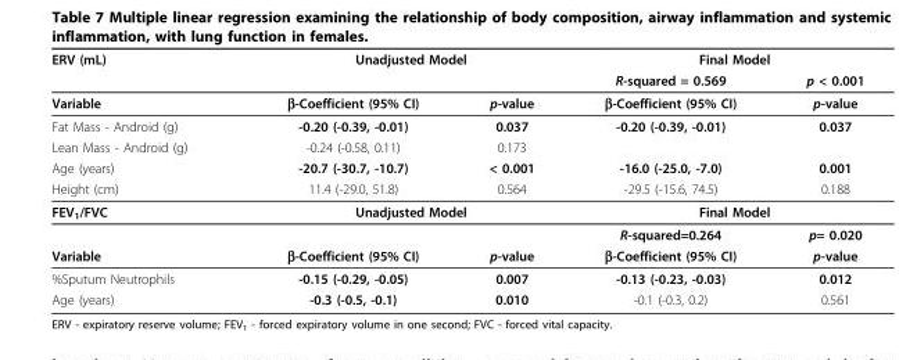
<table><thead><tr><td rowspan="2">ERV (mL)</td><td colspan="2">Unadjusted Model</td><td colspan="2">Final Model</td></tr><tr><td></td><td></td><td>R-squared = 0.569</td><td>p &lt; 0.001</td></tr></thead><tbody><tr><td>Variable</td><td>β-Coefficient (95% CI)</td><td>p-value</td><td>β-Coefficient (95% CI)</td><td>p-value</td></tr><tr><td>Fat Mass - Android (g)</td><td>-0.20 (-0.39, -0.01)</td><td>0.037</td><td>-0.20 (-0.39, -0.01)</td><td>0.037</td></tr><tr><td>Lean Mass - Android (g)</td><td>-0.24 (-0.58, 0.11)</td><td>0.173</td><td></td><td></td></tr><tr><td>Age (years)</td><td>-20.7 (-30.7, -10.7)</td><td>&lt; 0.001</td><td>-16.0 (-25.0, -7.0)</td><td>0.001</td></tr><tr><td>Height (cm)</td><td>11.4 (-29.0, 51.8)</td><td>0.564</td><td>-29.5 (-15.6, 74.5)</td><td>0.188</td></tr><tr><td rowspan="2">FEV<sub>1</sub>/FVC</td><td colspan="2">Unadjusted Model</td><td colspan="2">Final Model</td></tr><tr><td></td><td></td><td>R-squared=0.264</td><td>p= 0.020</td></tr><tr><td>Variable</td><td>β-Coefficient (95% CI)</td><td>p-value</td><td>β-Coefficient (95% CI)</td><td>p-value</td></tr><tr><td>%Sputum Neutrophils</td><td>-0.15 (-0.29, -0.05)</td><td>0.007</td><td>-0.13 (-0.23, -0.03)</td><td>0.012</td></tr><tr><td>Age (years)</td><td>-0.3 (-0.5, -0.1)</td><td>0.010</td><td>-0.1 (-0.3, 0.2)</td><td>0.561</td></tr></tbody></table>